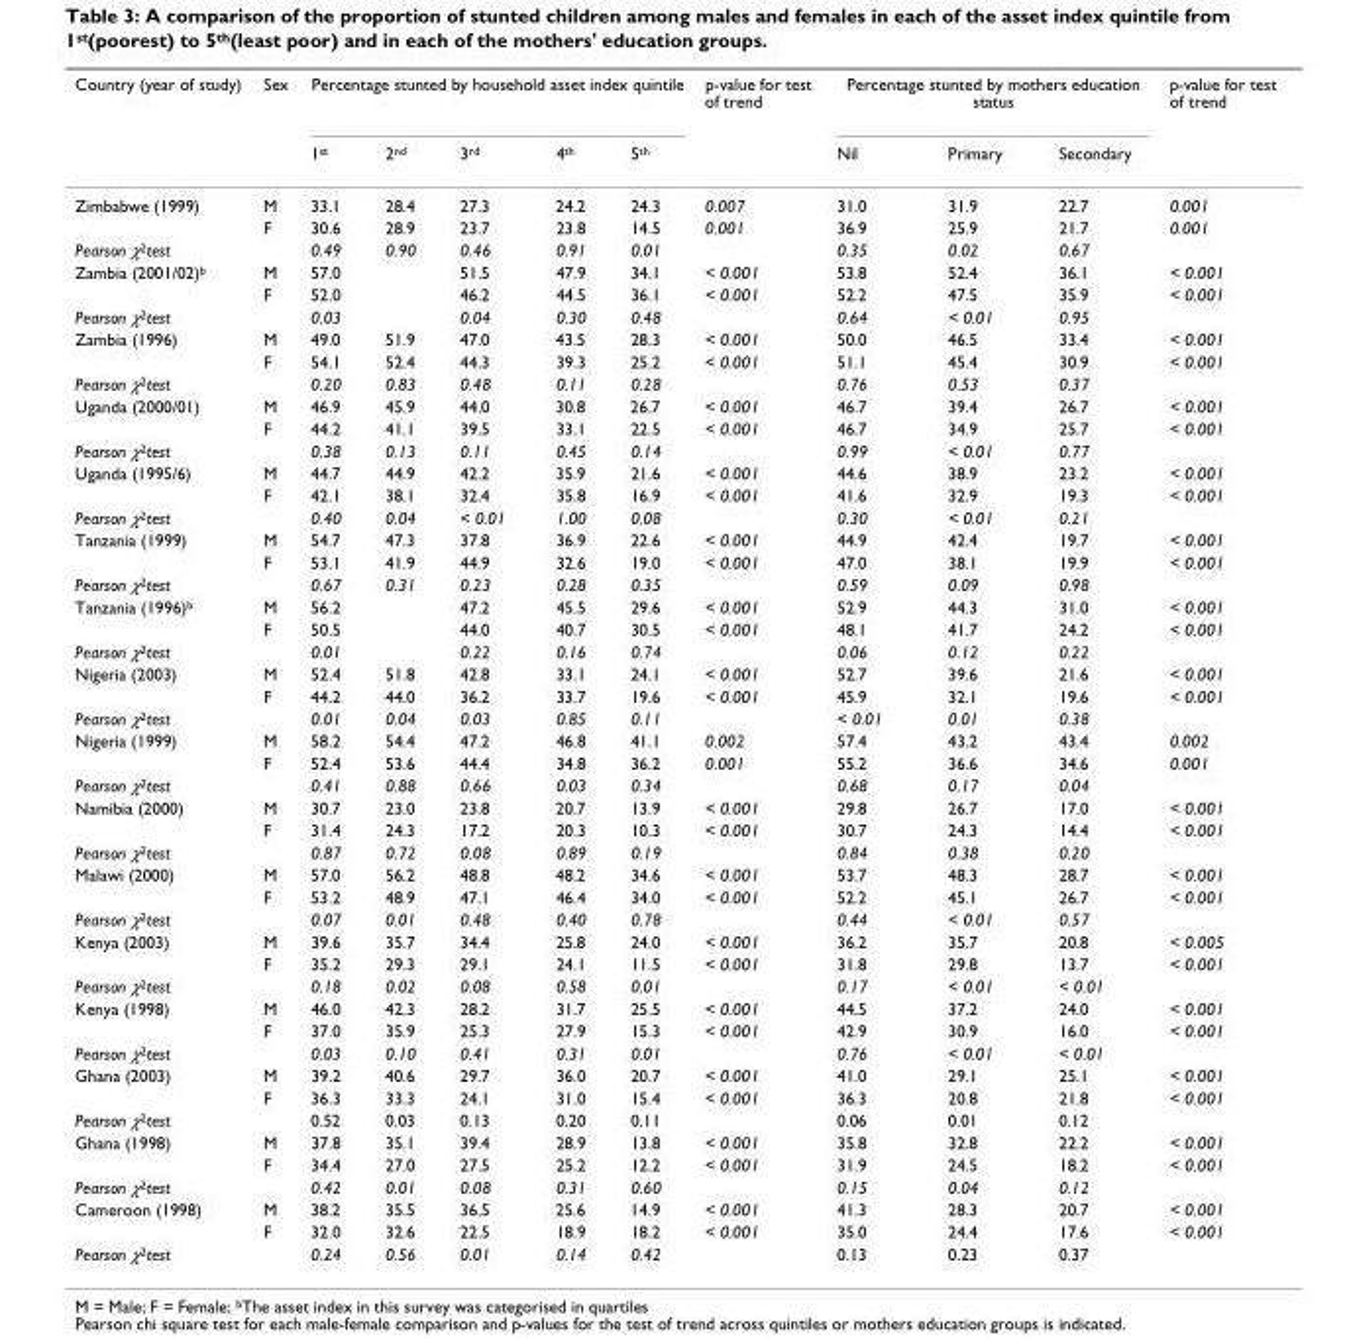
<table><thead><tr><td rowspan="2">Country (year of study)</td><td rowspan="2">Sex</td><td colspan="5">Percentage stunted by household asset index quintile</td><td rowspan="2">p-value for test of trend</td><td colspan="3">Percentage stunted by mothers education status</td><td rowspan="2">p-value for test of trend</td></tr><tr><td>1st</td><td>2nd</td><td>3rd</td><td>4th</td><td>5th</td><td>Nil</td><td>Primary</td><td>Secondary</td></tr></thead><tbody><tr><td rowspan="2">Zimbabwe (1999)</td><td>M</td><td>33.1</td><td>28.4</td><td>27.3</td><td>24.2</td><td>24.3</td><td>0.007</td><td>31.0</td><td>31.9</td><td>22.7</td><td>0.001</td></tr><tr><td>F</td><td>30.6</td><td>28.9</td><td>23.7</td><td>23.8</td><td>14.5</td><td>0.001</td><td>36.9</td><td>25.9</td><td>21.7</td><td>0.001</td></tr><tr><td>Pearson χ2test</td><td></td><td>0.49</td><td>0.90</td><td>0.46</td><td>0.91</td><td>0.01</td><td></td><td>0.35</td><td>0.02</td><td>0.67</td><td></td></tr><tr><td rowspan="2">Zambia (2001/02)b</td><td>M</td><td>57.0</td><td></td><td>51.5</td><td>47.9</td><td>34.1</td><td>&lt; 0.001</td><td>53.8</td><td>52.4</td><td>36.1</td><td>&lt; 0.001</td></tr><tr><td>F</td><td>52.0</td><td></td><td>46.2</td><td>44.5</td><td>36.1</td><td>&lt; 0.001</td><td>52.2</td><td>47.5</td><td>35.9</td><td>&lt; 0.001</td></tr><tr><td>Pearson χ2test</td><td></td><td>0.03</td><td></td><td>0.04</td><td>0.30</td><td>0.48</td><td></td><td>0.64</td><td>&lt; 0.01</td><td>0.95</td><td></td></tr><tr><td rowspan="2">Zambia (1996)</td><td>M</td><td>49.0</td><td>51.9</td><td>47.0</td><td>43.5</td><td>28.3</td><td>&lt; 0.001</td><td>50.0</td><td>46.5</td><td>33.4</td><td>&lt; 0.001</td></tr><tr><td>F</td><td>54.1</td><td>52.4</td><td>44.3</td><td>39.3</td><td>25.2</td><td>&lt; 0.001</td><td>51.1</td><td>45.4</td><td>30.9</td><td>&lt; 0.001</td></tr><tr><td>Pearson χ2test</td><td></td><td>0.20</td><td>0.83</td><td>0.48</td><td>0.11</td><td>0.28</td><td></td><td>0.76</td><td>0.53</td><td>0.37</td><td></td></tr><tr><td rowspan="2">Uganda (2000/01)</td><td>M</td><td>46.9</td><td>45.9</td><td>44.0</td><td>30.8</td><td>26.7</td><td>&lt; 0.001</td><td>46.7</td><td>39.4</td><td>26.7</td><td>&lt; 0.001</td></tr><tr><td>F</td><td>44.2</td><td>41.1</td><td>39.5</td><td>33.1</td><td>22.5</td><td>&lt; 0.001</td><td>46.7</td><td>34.9</td><td>25.7</td><td>&lt; 0.001</td></tr><tr><td>Pearson χ2test</td><td></td><td>0.38</td><td>0.13</td><td>0.11</td><td>0.45</td><td>0.14</td><td></td><td>0.99</td><td>&lt; 0.01</td><td>0.77</td><td></td></tr><tr><td rowspan="2">Uganda (1995/6)</td><td>M</td><td>44.7</td><td>44.9</td><td>42.2</td><td>35.9</td><td>21.6</td><td>&lt; 0.001</td><td>44.6</td><td>38.9</td><td>23.2</td><td>&lt; 0.001</td></tr><tr><td>F</td><td>42.1</td><td>38.1</td><td>32.4</td><td>35.8</td><td>16.9</td><td>&lt; 0.001</td><td>41.6</td><td>32.9</td><td>19.3</td><td>&lt; 0.001</td></tr><tr><td>Pearson χ2test</td><td></td><td>0.40</td><td>0.04</td><td>&lt; 0.01</td><td>1.00</td><td>0.08</td><td></td><td>0.30</td><td>&lt; 0.01</td><td>0.21</td><td></td></tr><tr><td rowspan="2">Tanzania (1999)</td><td>M</td><td>54.7</td><td>47.3</td><td>37.8</td><td>36.9</td><td>22.6</td><td>&lt; 0.001</td><td>44.9</td><td>42.4</td><td>19.7</td><td>&lt; 0.001</td></tr><tr><td>F</td><td>53.1</td><td>41.9</td><td>44.9</td><td>32.6</td><td>19.0</td><td>&lt; 0.001</td><td>47.0</td><td>38.1</td><td>19.9</td><td>&lt; 0.001</td></tr><tr><td>Pearson χ2test</td><td></td><td>0.67</td><td>0.31</td><td>0.23</td><td>0.28</td><td>0.35</td><td></td><td>0.59</td><td>0.09</td><td>0.98</td><td></td></tr><tr><td rowspan="2">Tanzania (1996)b</td><td>M</td><td>56.2</td><td></td><td>47.2</td><td>45.5</td><td>29.6</td><td>&lt; 0.001</td><td>52.9</td><td>44.3</td><td>31.0</td><td>&lt; 0.001</td></tr><tr><td>F</td><td>50.5</td><td></td><td>44.0</td><td>40.7</td><td>30.5</td><td>&lt; 0.001</td><td>48.1</td><td>41.7</td><td>24.2</td><td>&lt; 0.001</td></tr><tr><td>Pearson χ2test</td><td></td><td>0.01</td><td></td><td>0.22</td><td>0.16</td><td>0.74</td><td></td><td>0.06</td><td>0.12</td><td>0.22</td><td></td></tr><tr><td rowspan="2">Nigeria (2003)</td><td>M</td><td>52.4</td><td>51.8</td><td>42.8</td><td>33.1</td><td>24.1</td><td>&lt; 0.001</td><td>52.7</td><td>39.6</td><td>21.6</td><td>&lt; 0.001</td></tr><tr><td>F</td><td>44.2</td><td>44.0</td><td>36.2</td><td>33.7</td><td>19.6</td><td>&lt; 0.001</td><td>45.9</td><td>32.1</td><td>19.6</td><td>&lt; 0.001</td></tr><tr><td>Pearson χ2test</td><td></td><td>0.01</td><td>0.04</td><td>0.03</td><td>0.85</td><td>0.11</td><td></td><td>&lt; 0.01</td><td>0.01</td><td>0.38</td><td></td></tr><tr><td rowspan="2">Nigeria (1999)</td><td>M</td><td>58.2</td><td>54.4</td><td>47.2</td><td>46.8</td><td>41.1</td><td>0.002</td><td>57.4</td><td>43.2</td><td>43.4</td><td>0.002</td></tr><tr><td>F</td><td>52.4</td><td>53.6</td><td>44.4</td><td>34.8</td><td>36.2</td><td>0.001</td><td>55.2</td><td>36.6</td><td>34.6</td><td>0.001</td></tr><tr><td>Pearson χ2test</td><td></td><td>0.41</td><td>0.88</td><td>0.66</td><td>0.03</td><td>0.34</td><td></td><td>0.68</td><td>0.17</td><td>0.04</td><td></td></tr><tr><td rowspan="2">Namibia (2000)</td><td>M</td><td>30.7</td><td>23.0</td><td>23.8</td><td>20.7</td><td>13.9</td><td>&lt; 0.001</td><td>29.8</td><td>26.7</td><td>17.0</td><td>&lt; 0.001</td></tr><tr><td>F</td><td>31.4</td><td>24.3</td><td>17.2</td><td>20.3</td><td>10.3</td><td>&lt; 0.001</td><td>30.7</td><td>24.3</td><td>14.4</td><td>&lt; 0.001</td></tr><tr><td>Pearson χ2test</td><td></td><td>0.87</td><td>0.72</td><td>0.08</td><td>0.89</td><td>0.19</td><td></td><td>0.84</td><td>0.38</td><td>0.20</td><td></td></tr><tr><td rowspan="2">Malawi (2000)</td><td>M</td><td>57.0</td><td>56.2</td><td>48.8</td><td>48.2</td><td>34.6</td><td>&lt; 0.001</td><td>53.7</td><td>48.3</td><td>28.7</td><td>&lt; 0.001</td></tr><tr><td>F</td><td>53.2</td><td>48.9</td><td>47.1</td><td>46.4</td><td>34.0</td><td>&lt; 0.001</td><td>52.2</td><td>45.1</td><td>26.7</td><td>&lt; 0.001</td></tr><tr><td>Pearson χ2test</td><td></td><td>0.07</td><td>0.01</td><td>0.48</td><td>0.40</td><td>0.78</td><td></td><td>0.44</td><td>&lt; 0.01</td><td>0.57</td><td></td></tr><tr><td rowspan="2">Kenya (2003)</td><td>M</td><td>39.6</td><td>35.7</td><td>34.4</td><td>25.8</td><td>24.0</td><td>&lt; 0.001</td><td>36.2</td><td>35.7</td><td>20.8</td><td>&lt; 0.005</td></tr><tr><td>F</td><td>35.2</td><td>29.3</td><td>29.1</td><td>24.1</td><td>11.5</td><td>&lt; 0.001</td><td>31.8</td><td>29.8</td><td>13.7</td><td>&lt; 0.001</td></tr><tr><td>Pearson χ2test</td><td></td><td>0.18</td><td>0.02</td><td>0.08</td><td>0.58</td><td>0.01</td><td></td><td>0.17</td><td>&lt; 0.01</td><td>&lt; 0.01</td><td></td></tr><tr><td rowspan="2">Kenya (1998)</td><td>M</td><td>46.0</td><td>42.3</td><td>28.2</td><td>31.7</td><td>25.5</td><td>&lt; 0.001</td><td>44.5</td><td>37.2</td><td>24.0</td><td>&lt; 0.001</td></tr><tr><td>F</td><td>37.0</td><td>35.9</td><td>25.3</td><td>27.9</td><td>15.3</td><td>&lt; 0.001</td><td>42.9</td><td>30.9</td><td>16.0</td><td>&lt; 0.001</td></tr><tr><td>Pearson χ2test</td><td></td><td>0.03</td><td>0.10</td><td>0.41</td><td>0.31</td><td>0.01</td><td></td><td>0.76</td><td>&lt; 0.01</td><td>&lt; 0.01</td><td></td></tr><tr><td rowspan="2">Ghana (2003)</td><td>M</td><td>39.2</td><td>40.6</td><td>29.7</td><td>36.0</td><td>20.7</td><td>&lt; 0.001</td><td>41.0</td><td>29.1</td><td>25.1</td><td>&lt; 0.001</td></tr><tr><td>F</td><td>36.3</td><td>33.3</td><td>24.1</td><td>31.0</td><td>15.4</td><td>&lt; 0.001</td><td>36.3</td><td>20.8</td><td>21.8</td><td>&lt; 0.001</td></tr><tr><td>Pearson χ2test</td><td></td><td>0.52</td><td>0.03</td><td>0.13</td><td>0.20</td><td>0.11</td><td></td><td>0.06</td><td>0.01</td><td>0.12</td><td></td></tr><tr><td rowspan="2">Ghana (1998)</td><td>M</td><td>37.8</td><td>35.1</td><td>39.4</td><td>28.9</td><td>13.8</td><td>&lt; 0.001</td><td>35.8</td><td>32.8</td><td>22.2</td><td>&lt; 0.001</td></tr><tr><td>F</td><td>34.4</td><td>27.0</td><td>27.5</td><td>25.2</td><td>12.2</td><td>&lt; 0.001</td><td>31.9</td><td>24.5</td><td>18.2</td><td>&lt; 0.001</td></tr><tr><td>Pearson χ2test</td><td></td><td>0.42</td><td>0.01</td><td>0.08</td><td>0.31</td><td>0.60</td><td></td><td>0.15</td><td>0.04</td><td>0.12</td><td></td></tr><tr><td rowspan="2">Cameroon (1998)</td><td>M</td><td>38.2</td><td>35.5</td><td>36.5</td><td>25.6</td><td>14.9</td><td>&lt; 0.001</td><td>41.3</td><td>28.3</td><td>20.7</td><td>&lt; 0.001</td></tr><tr><td>F</td><td>32.0</td><td>32.6</td><td>22.5</td><td>18.9</td><td>18.2</td><td>&lt; 0.001</td><td>35.0</td><td>24.4</td><td>17.6</td><td>&lt; 0.001</td></tr><tr><td>Pearson χ2test</td><td></td><td>0.24</td><td>0.56</td><td>0.01</td><td>0.14</td><td>0.42</td><td></td><td>0.13</td><td>0.23</td><td>0.37</td><td></td></tr></tbody></table>